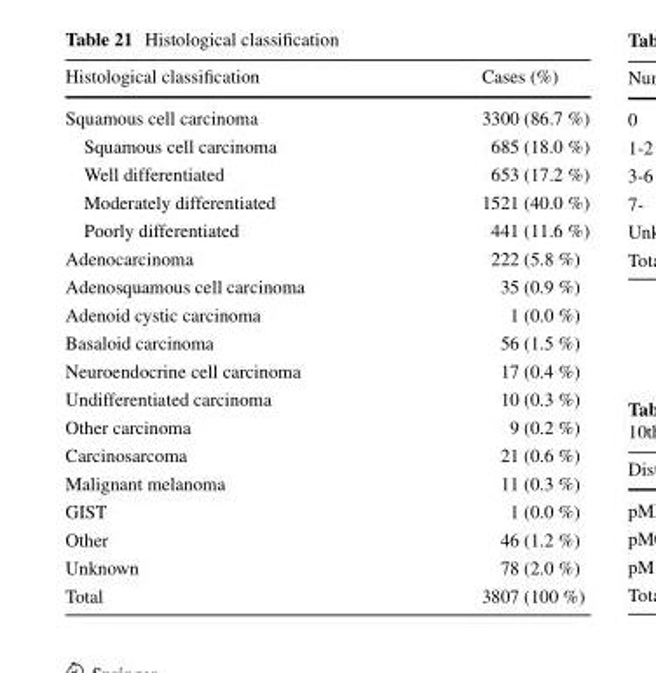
<table><thead><tr><td>Histological classification</td><td>Cases (%)</td></tr></thead><tbody><tr><td>Squamous cell carcinoma</td><td>3300 (86.7 %)</td></tr><tr><td>Squamous cell carcinoma</td><td>685 (18.0 %)</td></tr><tr><td>Well differentiated</td><td>653 (17.2 %)</td></tr><tr><td>Moderately differentiated</td><td>1521 (40.0 %)</td></tr><tr><td>Poorly differentiated</td><td>441 (11.6 %)</td></tr><tr><td>Adenocarcinoma</td><td>222 (5.8 %)</td></tr><tr><td>Adenosquamous cell carcinoma</td><td>35 (0.9 %)</td></tr><tr><td>Adenoid cystic carcinoma</td><td>1 (0.0 %)</td></tr><tr><td>Basaloid carcinoma</td><td>56 (1.5 %)</td></tr><tr><td>Neuroendocrine cell carcinoma</td><td>17 (0.4 %)</td></tr><tr><td>Undifferentiated carcinoma</td><td>10 (0.3 %)</td></tr><tr><td>Other carcinoma</td><td>9 (0.2 %)</td></tr><tr><td>Carcinosarcoma</td><td>21 (0.6 %)</td></tr><tr><td>Malignant melanoma</td><td>11 (0.3 %)</td></tr><tr><td>GIST</td><td>1 (0.0 %)</td></tr><tr><td>Other</td><td>46 (1.2 %)</td></tr><tr><td>Unknown</td><td>78 (2.0 %)</td></tr><tr><td>Total</td><td>3807 (100 %)</td></tr></tbody></table>